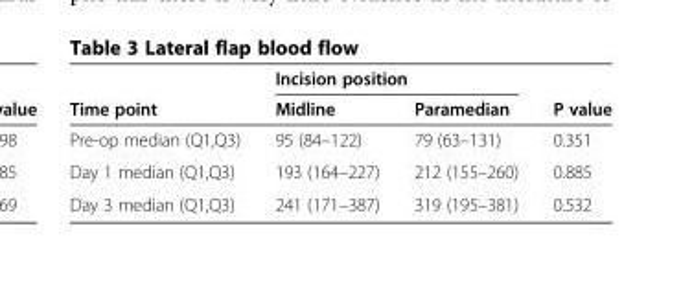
<table><thead><tr><td rowspan="2">Time point</td><td colspan="2">Incision position</td><td rowspan="2">P value</td></tr><tr><td>Midline</td><td>Paramedian</td></tr></thead><tbody><tr><td>Pre-op median (Q1,Q3)</td><td>95 (84–122)</td><td>79 (63–131)</td><td>0.351</td></tr><tr><td>Day 1 median (Q1,Q3)</td><td>193 (164–227)</td><td>212 (155–260)</td><td>0.885</td></tr><tr><td>Day 3 median (Q1,Q3)</td><td>241 (171–387)</td><td>319 (195–381)</td><td>0.532</td></tr></tbody></table>